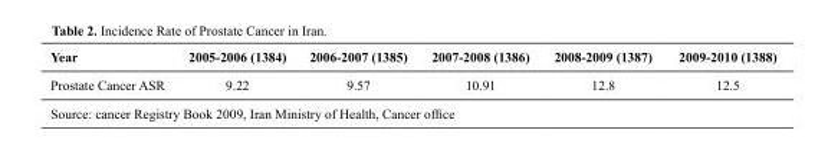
<table><thead><tr><td>Year</td><td>2005-2006 (1384)</td><td>2006-2007 (1385)</td><td>2007-2008 (1386)</td><td>2008-2009 (1387)</td><td>2009-2010 (1388)</td></tr></thead><tbody><tr><td>Prostate Cancer ASR</td><td>9.22</td><td>9.57</td><td>10.91</td><td>12.8</td><td>12.5</td></tr></tbody></table>